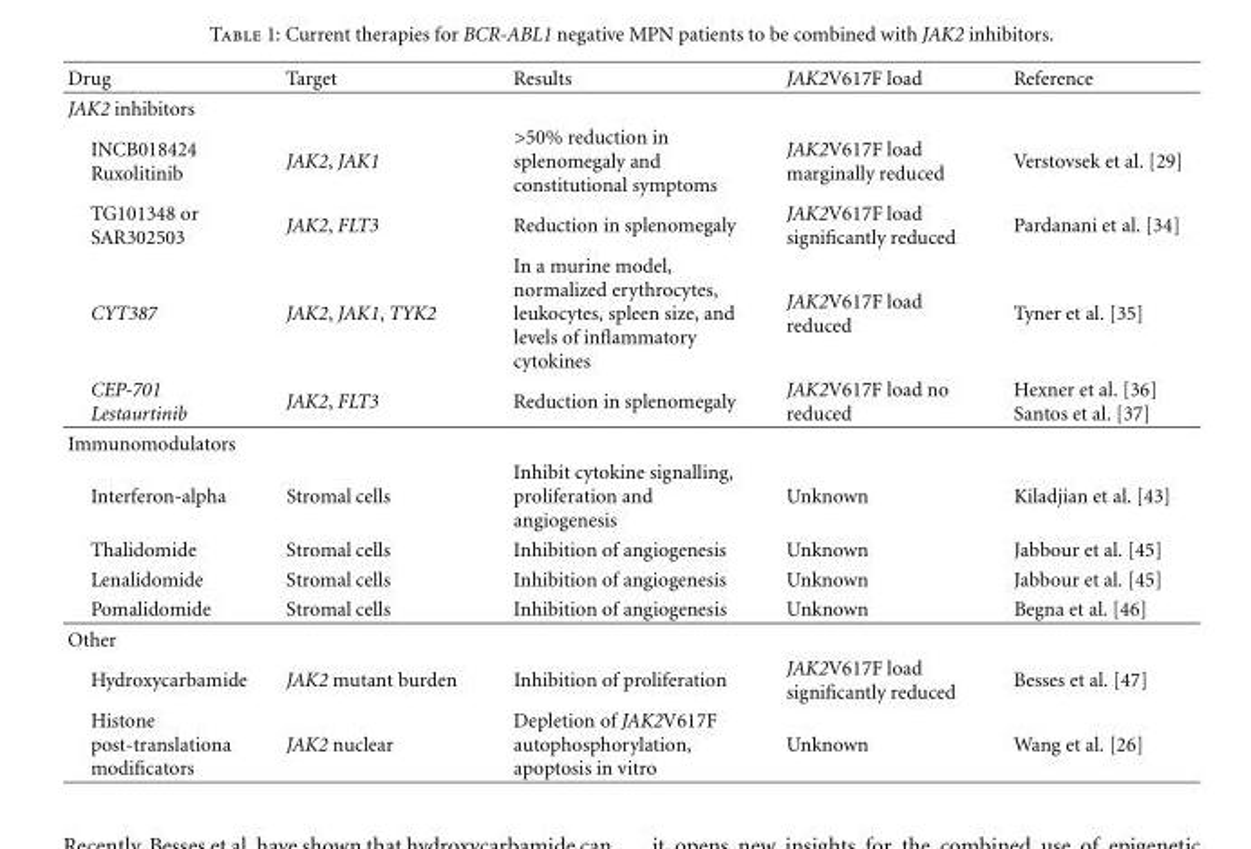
<table><thead><tr><td>Drug</td><td>Target</td><td>Results</td><td>JAK2V617F load</td><td>Reference</td></tr></thead><tbody><tr><td colspan="5">JAK2 inhibitors</td></tr><tr><td>INCB018424 Ruxolitinib</td><td>JAK2, JAK1</td><td>&gt;50% reduction in splenomegaly and constitutional symptoms</td><td>JAK2V617F load marginally reduced</td><td>Verstovsek et al. [29]</td></tr><tr><td>TG101348 or SAR302503</td><td>JAK2, FLT3</td><td>Reduction in splenomegaly</td><td>JAK2V617F load significantly reduced</td><td>Pardanani et al. [34]</td></tr><tr><td>CYT387</td><td>JAK2, JAK1, TYK2</td><td>In a murine model, normalized erythrocytes, leukocytes, spleen size, and levels of inflammatory cytokines</td><td>JAK2V617F load reduced</td><td>Tyner et al. [35]</td></tr><tr><td>CEP-701 Lestaurtinib</td><td>JAK2, FLT3</td><td>Reduction in splenomegaly</td><td>JAK2V617F load no reduced</td><td>Hexner et al. [36] Santos et al. [37]</td></tr><tr><td colspan="5">Immunomodulators</td></tr><tr><td>Interferon-alpha</td><td>Stromal cells</td><td>Inhibit cytokine signalling, proliferation and angiogenesis</td><td>Unknown</td><td>Kiladjian et al. [43]</td></tr><tr><td>Thalidomide</td><td>Stromal cells</td><td>Inhibition of angiogenesis</td><td>Unknown</td><td>Jabbour et al. [45]</td></tr><tr><td>Lenalidomide</td><td>Stromal cells</td><td>Inhibition of angiogenesis</td><td>Unknown</td><td>Jabbour et al. [45]</td></tr><tr><td>Pomalidomide</td><td>Stromal cells</td><td>Inhibition of angiogenesis</td><td>Unknown</td><td>Begna et al. [46]</td></tr><tr><td colspan="5">Other</td></tr><tr><td>Hydroxycarbamide</td><td>JAK2 mutant burden</td><td>Inhibition of proliferation</td><td>JAK2V617F load significantly reduced</td><td>Besses et al. [47]</td></tr><tr><td>Histone post-translationa modificators</td><td>JAK2 nuclear</td><td>Depletion of JAK2V617F autophosphorylation, apoptosis in vitro</td><td>Unknown</td><td>Wang et al. [26]</td></tr></tbody></table>